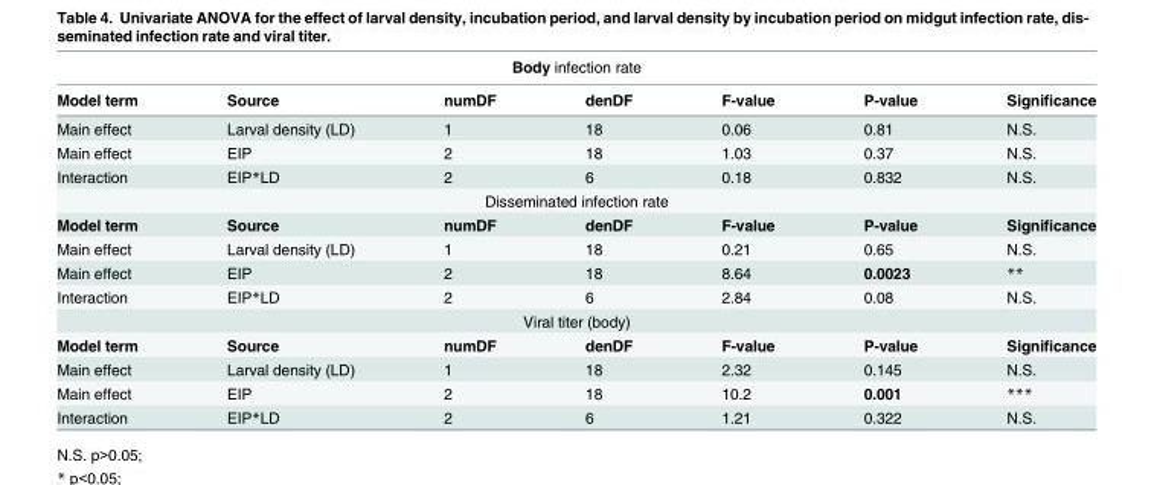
<table><thead><tr><td colspan="7">Body infection rate</td></tr><tr><td>Model term</td><td>Source</td><td>numDF</td><td>denDF</td><td>F-value</td><td>P-value</td><td>Significance</td></tr></thead><tbody><tr><td>Main effect</td><td>Larval density (LD)</td><td>1</td><td>18</td><td>0.06</td><td>0.81</td><td>N.S.</td></tr><tr><td>Main effect</td><td>EIP</td><td>2</td><td>18</td><td>1.03</td><td>0.37</td><td>N.S.</td></tr><tr><td>Interaction</td><td>EIP*LD</td><td>2</td><td>6</td><td>0.18</td><td>0.832</td><td>N.S.</td></tr><tr><td colspan="7">Disseminated infection rate</td></tr><tr><td>Model term</td><td>Source</td><td>numDF</td><td>denDF</td><td>F-value</td><td>P-value</td><td>Significance</td></tr><tr><td>Main effect</td><td>Larval density (LD)</td><td>1</td><td>18</td><td>0.21</td><td>0.65</td><td>N.S.</td></tr><tr><td>Main effect</td><td>EIP</td><td>2</td><td>18</td><td>8.64</td><td>0.0023</td><td>**</td></tr><tr><td>Interaction</td><td>EIP*LD</td><td>2</td><td>6</td><td>2.84</td><td>0.08</td><td>N.S.</td></tr><tr><td colspan="7">Viral titer (body)</td></tr><tr><td>Model term</td><td>Source</td><td>numDF</td><td>denDF</td><td>F-value</td><td>P-value</td><td>Significance</td></tr><tr><td>Main effect</td><td>Larval density (LD)</td><td>1</td><td>18</td><td>2.32</td><td>0.145</td><td>N.S.</td></tr><tr><td>Main effect</td><td>EIP</td><td>2</td><td>18</td><td>10.2</td><td>0.001</td><td>***</td></tr><tr><td>Interaction</td><td>EIP*LD</td><td>2</td><td>6</td><td>1.21</td><td>0.322</td><td>N.S.</td></tr></tbody></table>